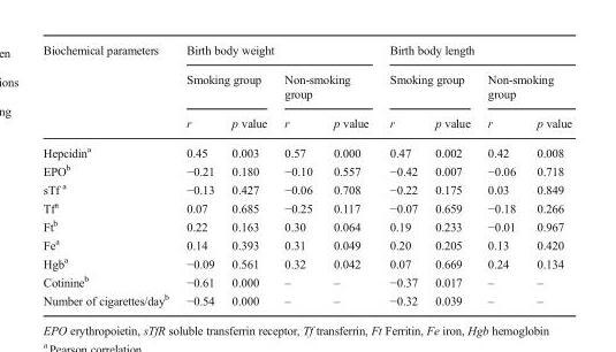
<table><thead><tr><td rowspan="3">Biochemical parameters</td><td colspan="4">Birth body weight</td><td colspan="4">Birth body length</td></tr><tr><td colspan="2">Smoking group</td><td colspan="2">Non-smoking group</td><td colspan="2">Smoking group</td><td colspan="2">Non-smoking group</td></tr><tr><td>r</td><td>p value</td><td>r</td><td>p value</td><td>r</td><td>p value</td><td>r</td><td>p value</td></tr></thead><tbody><tr><td>Hepcidin<sup>a</sup></td><td>0.45</td><td>0.003</td><td>0.57</td><td>0.000</td><td>0.47</td><td>0.002</td><td>0.42</td><td>0.008</td></tr><tr><td>EPO<sup>b</sup></td><td>−0.21</td><td>0.180</td><td>−0.10</td><td>0.557</td><td>−0.42</td><td>0.007</td><td>−0.06</td><td>0.718</td></tr><tr><td>sTf <sup>a</sup></td><td>−0.13</td><td>0.427</td><td>−0.06</td><td>0.708</td><td>−0.22</td><td>0.175</td><td>0.03</td><td>0.849</td></tr><tr><td>Tf<sup>a</sup></td><td>0.07</td><td>0.685</td><td>−0.25</td><td>0.117</td><td>−0.07</td><td>0.659</td><td>−0.18</td><td>0.266</td></tr><tr><td>Ft<sup>b</sup></td><td>0.22</td><td>0.163</td><td>0.30</td><td>0.064</td><td>0.19</td><td>0.233</td><td>−0.01</td><td>0.967</td></tr><tr><td>Fe<sup>a</sup></td><td>0.14</td><td>0.393</td><td>0.31</td><td>0.049</td><td>0.20</td><td>0.205</td><td>0.13</td><td>0.420</td></tr><tr><td>Hgb<sup>a</sup></td><td>−0.09</td><td>0.561</td><td>0.32</td><td>0.042</td><td>0.07</td><td>0.669</td><td>0.24</td><td>0.134</td></tr><tr><td>Cotinine<sup>b</sup></td><td>−0.61</td><td>0.000</td><td>–</td><td>–</td><td>−0.37</td><td>0.017</td><td>–</td><td>–</td></tr><tr><td>Number of cigarettes/day<sup>b</sup></td><td>−0.54</td><td>0.000</td><td>–</td><td>–</td><td>−0.32</td><td>0.039</td><td>–</td><td>–</td></tr></tbody></table>